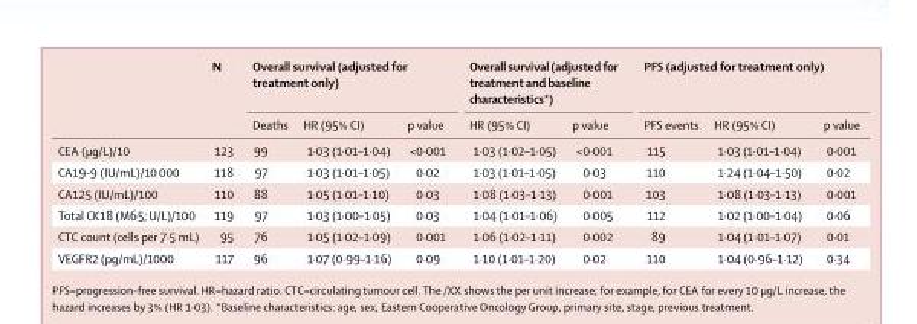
<table><thead><tr><td rowspan="2"></td><td rowspan="2">N</td><td colspan="3">Overall survival (adjusted for treatment only)</td><td colspan="2">Overall survival (adjusted for treatment and baseline characteristics*)</td><td colspan="3">PFS (adjusted for treatment only)</td></tr><tr><td>Deaths</td><td>HR (95% CI)</td><td>p value</td><td>HR (95% CI)</td><td>p value</td><td>PFS events</td><td>HR (95% CI)</td><td>p value</td></tr></thead><tbody><tr><td>CEA (μg/L)/10</td><td>123</td><td>99</td><td>1·03 (1·01–1·04)</td><td>&lt;0·001</td><td>1·03 (1·02–1·05)</td><td>&lt;0·001</td><td>115</td><td>1·03 (1·01–1·04)</td><td>0·001</td></tr><tr><td>CA19-9 (IU/mL)/10 000</td><td>118</td><td>97</td><td>1·03 (1·01–1·05)</td><td>0·02</td><td>1·03 (1·01–1·05)</td><td>0·03</td><td>110</td><td>1·24 (1·04–1·50)</td><td>0·02</td></tr><tr><td>CA125 (IU/mL)/100</td><td>110</td><td>88</td><td>1·05 (1·01–1·10)</td><td>0·03</td><td>1·08 (1·03–1·13)</td><td>0·001</td><td>103</td><td>1·08 (1·03–1·13)</td><td>0·001</td></tr><tr><td>Total CK18 (M65; U/L)/100</td><td>119</td><td>97</td><td>1·03 (1·00–1·05)</td><td>0·03</td><td>1·04 (1·01–1·06)</td><td>0·005</td><td>112</td><td>1·02 (1·00–1·04)</td><td>0·06</td></tr><tr><td>CTC count (cells per 7·5 mL)</td><td>95</td><td>76</td><td>1·05 (1·02–1·09)</td><td>0·001</td><td>1·06 (1·02–1·11)</td><td>0·002</td><td>89</td><td>1·04 (1·01–1·07)</td><td>0·01</td></tr><tr><td>VEGFR2 (pg/mL)/1000</td><td>117</td><td>96</td><td>1·07 (0·99–1·16)</td><td>0·09</td><td>1·10 (1·01–1·20)</td><td>0·02</td><td>110</td><td>1·04 (0·96–1·12)</td><td>0·34</td></tr></tbody></table>